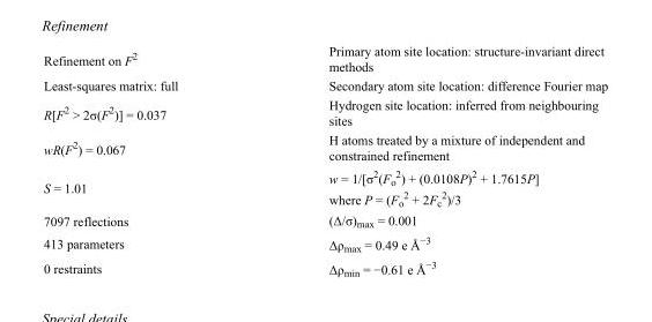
<table><tbody><tr><td>Refinement on F<sup>2</sup></td><td>Primary atom site location: structure-invariant direct methods</td></tr><tr><td>Least-squares matrix: full</td><td>Secondary atom site location: difference Fourier map</td></tr><tr><td>R[F<sup>2</sup> &gt; 2σ(F<sup>2</sup>)] = 0.037</td><td>Hydrogen site location: inferred from neighbouring sites</td></tr><tr><td>wR(F<sup>2</sup>) = 0.067</td><td>H atoms treated by a mixture of independent and constrained refinement</td></tr><tr><td>S = 1.01</td><td>w = 1/[σ<sup>2</sup>(F<sub>o</sub> <sup>2</sup>) + (0.0108P)<sup>2</sup> + 1.7615P] where P = (F<sub>o</sub> <sup>2</sup> + 2F<sub>c</sub> <sup>2</sup>)/3</td></tr><tr><td>7097 reflections</td><td>(Δ/σ)<sub>max</sub> = 0.001</td></tr><tr><td>413 parameters</td><td>Δρ<sub>max</sub> = 0.49 e Å<sup>−3</sup></td></tr><tr><td>0 restraints</td><td>Δρ<sub>min</sub> = −0.61 e Å<sup>−3</sup></td></tr></tbody></table>